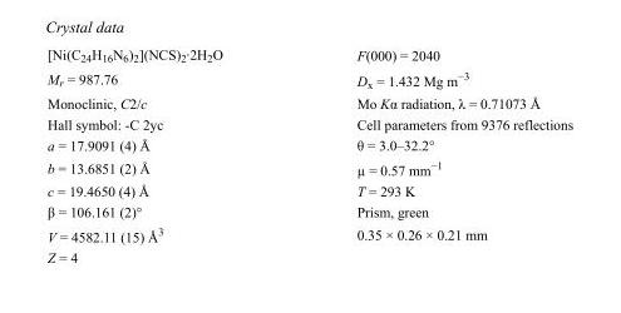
<table><tbody><tr><td>[Ni(C<sub>24</sub>H<sub>16</sub>N<sub>6</sub>)<sub>2</sub>](NCS)<sub>2</sub>·2H<sub>2</sub>O</td><td>F(000) = 2040</td></tr><tr><td>M<sub>r</sub> = 987.76</td><td>D<sub>x</sub> = 1.432 Mg m<sup>−3</sup></td></tr><tr><td>Monoclinic, C2/c</td><td>Mo Kα radiation, λ = 0.71073 Å</td></tr><tr><td>Hall symbol: -C 2yc</td><td>Cell parameters from 9376 reflections</td></tr><tr><td>a = 17.9091 (4) Å</td><td>θ = 3.0–32.2°</td></tr><tr><td>b = 13.6851 (2) Å</td><td>µ = 0.57 mm<sup>−1</sup></td></tr><tr><td>c = 19.4650 (4) Å</td><td>T = 293 K</td></tr><tr><td>β = 106.161 (2)°</td><td>Prism, green</td></tr><tr><td>V = 4582.11 (15) Å<sup>3</sup></td><td>0.35 × 0.26 × 0.21 mm</td></tr><tr><td>Z = 4</td><td></td></tr></tbody></table>